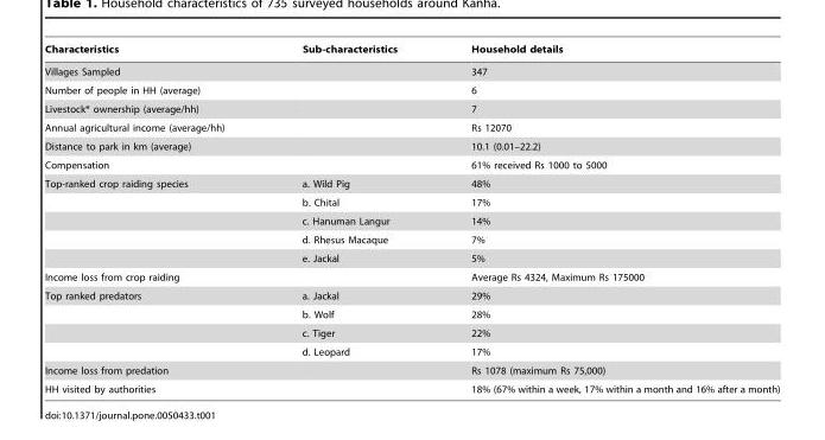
<table><thead><tr><td>Characteristics</td><td>Sub-characteristics</td><td>Household details</td></tr></thead><tbody><tr><td>Villages Sampled</td><td></td><td>347</td></tr><tr><td>Number of people in HH (average)</td><td></td><td>6</td></tr><tr><td>Livestock* ownership (average/hh)</td><td></td><td>7</td></tr><tr><td>Annual agricultural income (average/hh)</td><td></td><td>Rs 12070</td></tr><tr><td>Distance to park in km (average)</td><td></td><td>10.1 (0.01–22.2)</td></tr><tr><td>Compensation</td><td></td><td>61% received Rs 1000 to 5000</td></tr><tr><td rowspan="5">Top-ranked crop raiding species</td><td>a. Wild Pig</td><td>48%</td></tr><tr><td>b. Chital</td><td>17%</td></tr><tr><td>c. Hanuman Langur</td><td>14%</td></tr><tr><td>d. Rhesus Macaque</td><td>7%</td></tr><tr><td>e. Jackal</td><td>5%</td></tr><tr><td>Income loss from crop raiding</td><td></td><td>Average Rs 4324, Maximum Rs 175000</td></tr><tr><td rowspan="4">Top ranked predators</td><td>a. Jackal</td><td>29%</td></tr><tr><td>b. Wolf</td><td>28%</td></tr><tr><td>c. Tiger</td><td>22%</td></tr><tr><td>d. Leopard</td><td>17%</td></tr><tr><td>Income loss from predation</td><td></td><td>Rs 1078 (maximum Rs 75,000)</td></tr><tr><td>HH visited by authorities</td><td></td><td>18% (67% within a week, 17% within a month and 16% after a month)</td></tr></tbody></table>